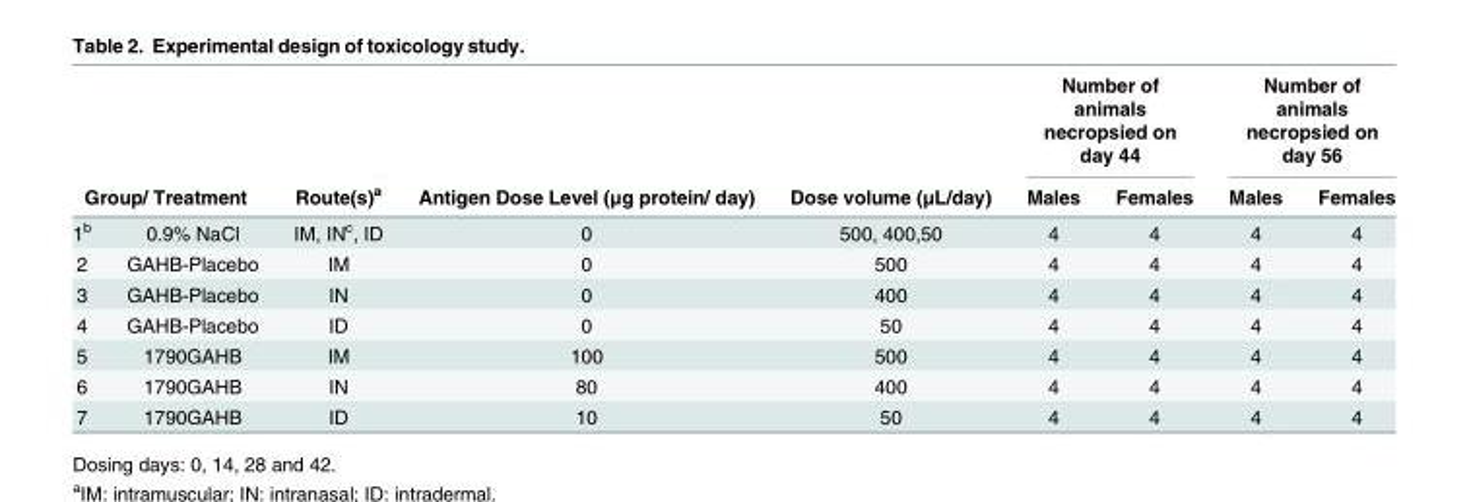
<table><thead><tr><td></td><td></td><td rowspan="2">Route(s)<sup>a</sup></td><td rowspan="2">Antigen Dose Level (μg protein/ day)</td><td rowspan="2">Dose volume (μL/day)</td><td colspan="2">Number of animals necropsied on day 44</td><td colspan="2">Number of animals necropsied on day 56</td></tr><tr><td colspan="2">Group/ Treatment</td><td>Males</td><td>Females</td><td>Males</td><td>Females</td></tr></thead><tbody><tr><td>1<sup>b</sup></td><td>0.9% NaCl</td><td>IM, IN<sup>c</sup>, ID</td><td>0</td><td>500, 400,50</td><td>4</td><td>4</td><td>4</td><td>4</td></tr><tr><td>2</td><td>GAHB-Placebo</td><td>IM</td><td>0</td><td>500</td><td>4</td><td>4</td><td>4</td><td>4</td></tr><tr><td>3</td><td>GAHB-Placebo</td><td>IN</td><td>0</td><td>400</td><td>4</td><td>4</td><td>4</td><td>4</td></tr><tr><td>4</td><td>GAHB-Placebo</td><td>ID</td><td>0</td><td>50</td><td>4</td><td>4</td><td>4</td><td>4</td></tr><tr><td>5</td><td>1790GAHB</td><td>IM</td><td>100</td><td>500</td><td>4</td><td>4</td><td>4</td><td>4</td></tr><tr><td>6</td><td>1790GAHB</td><td>IN</td><td>80</td><td>400</td><td>4</td><td>4</td><td>4</td><td>4</td></tr><tr><td>7</td><td>1790GAHB</td><td>ID</td><td>10</td><td>50</td><td>4</td><td>4</td><td>4</td><td>4</td></tr></tbody></table>